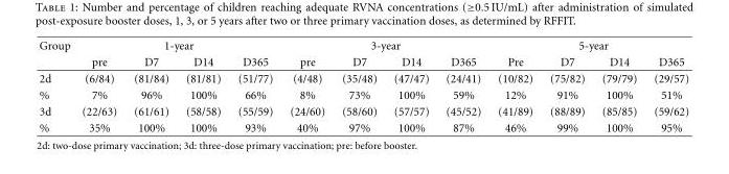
<table><thead><tr><td rowspan="2">Group</td><td colspan="4">1-year</td><td colspan="4">3-year</td><td colspan="4">5-year</td></tr><tr><td>pre</td><td>D7</td><td>D14</td><td>D365</td><td>pre</td><td>D7</td><td>D14</td><td>D365</td><td>Pre</td><td>D7</td><td>D14</td><td>D365</td></tr></thead><tbody><tr><td>2d</td><td>(6/84)</td><td>(81/84)</td><td>(81/81)</td><td>(51/77)</td><td>(4/48)</td><td>(35/48)</td><td>(47/47)</td><td>(24/41)</td><td>(10/82)</td><td>(75/82)</td><td>(79/79)</td><td>(29/57)</td></tr><tr><td>%</td><td>7%</td><td>96%</td><td>100%</td><td>66%</td><td>8%</td><td>73%</td><td>100%</td><td>59%</td><td>12%</td><td>91%</td><td>100%</td><td>51%</td></tr><tr><td>3d</td><td>(22/63)</td><td>(61/61)</td><td>(58/58)</td><td>(55/59)</td><td>(24/60)</td><td>(58/60)</td><td>(57/57)</td><td>(45/52)</td><td>(41/89)</td><td>(88/89)</td><td>(85/85)</td><td>(59/62)</td></tr><tr><td>%</td><td>35%</td><td>100%</td><td>100%</td><td>93%</td><td>40%</td><td>97%</td><td>100%</td><td>87%</td><td>46%</td><td>99%</td><td>100%</td><td>95%</td></tr></tbody></table>